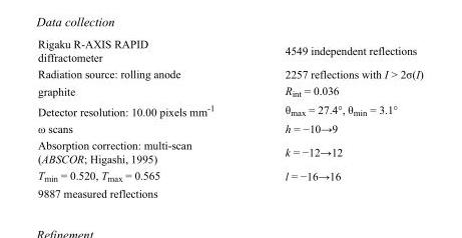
<table><tbody><tr><td>Rigaku R-AXIS RAPID diffractometer</td><td>4549 independent reflections</td></tr><tr><td>Radiation source: rolling anode</td><td>2257 reflections with I &gt; 2σ(I)</td></tr><tr><td>graphite</td><td>R<sub>int</sub> = 0.036</td></tr><tr><td>Detector resolution: 10.00 pixels mm<sup>-1</sup></td><td>θ<sub>max</sub> = 27.4°, θ<sub>min</sub> = 3.1°</td></tr><tr><td>ω scans</td><td>h = −10→9</td></tr><tr><td>Absorption correction: multi-scan (ABSCOR; Higashi, 1995)</td><td>k = −12→12</td></tr><tr><td>T<sub>min</sub> = 0.520, T<sub>max</sub> = 0.565</td><td>l = −16→16</td></tr><tr><td>9887 measured reflections</td><td></td></tr></tbody></table>